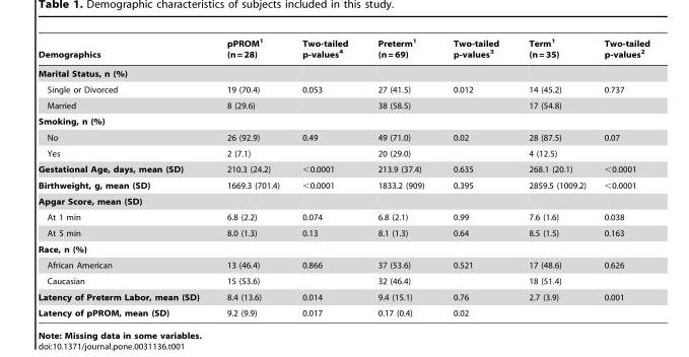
<table><thead><tr><td>Demographics</td><td>pPROM<sup>1</sup> (n = 28)</td><td>Two-tailed p-values<sup>4</sup></td><td>Preterm<sup>1</sup> (n = 69)</td><td>Two-tailed p-values<sup>3</sup></td><td>Term<sup>1</sup> (n = 35)</td><td>Two-tailed p-values<sup>2</sup></td></tr></thead><tbody><tr><td colspan="7">Marital Status, n (%)</td></tr><tr><td>Single or Divorced</td><td>19 (70.4)</td><td>0.053</td><td>27 (41.5)</td><td>0.012</td><td>14 (45.2)</td><td>0.737</td></tr><tr><td>Married</td><td>8 (29.6)</td><td></td><td>38 (58.5)</td><td></td><td>17 (54.8)</td><td></td></tr><tr><td colspan="7">Smoking, n (%)</td></tr><tr><td>No</td><td>26 (92.9)</td><td>0.49</td><td>49 (71.0)</td><td>0.02</td><td>28 (87.5)</td><td>0.07</td></tr><tr><td>Yes</td><td>2 (7.1)</td><td></td><td>20 (29.0)</td><td></td><td>4 (12.5)</td><td></td></tr><tr><td>Gestational Age, days, mean (SD)</td><td>210.3 (24.2)</td><td>&lt;0.0001</td><td>213.9 (37.4)</td><td>0.635</td><td>268.1 (20.1)</td><td>&lt;0.0001</td></tr><tr><td>Birthweight, g, mean (SD)</td><td>1669.3 (701.4)</td><td>&lt;0.0001</td><td>1833.2 (909)</td><td>0.395</td><td>2859.5 (1009.2)</td><td>&lt;0.0001</td></tr><tr><td colspan="7">Apgar Score, mean (SD)</td></tr><tr><td>At 1 min</td><td>6.8 (2.2)</td><td>0.074</td><td>6.8 (2.1)</td><td>0.99</td><td>7.6 (1.6)</td><td>0.038</td></tr><tr><td>At 5 min</td><td>8.0 (1.3)</td><td>0.13</td><td>8.1 (1.3)</td><td>0.64</td><td>8.5 (1.5)</td><td>0.163</td></tr><tr><td colspan="7">Race, n (%)</td></tr><tr><td>African American</td><td>13 (46.4)</td><td>0.866</td><td>37 (53.6)</td><td>0.521</td><td>17 (48.6)</td><td>0.626</td></tr><tr><td>Caucasian</td><td>15 (53.6)</td><td></td><td>32 (46.4)</td><td></td><td>18 (51.4)</td><td></td></tr><tr><td>Latency of Preterm Labor, mean (SD)</td><td>8.4 (13.6)</td><td>0.014</td><td>9.4 (15.1)</td><td>0.76</td><td>2.7 (3.9)</td><td>0.001</td></tr><tr><td>Latency of pPROM, mean (SD)</td><td>9.2 (9.9)</td><td>0.017</td><td>0.17 (0.4)</td><td>0.02</td><td></td><td></td></tr></tbody></table>